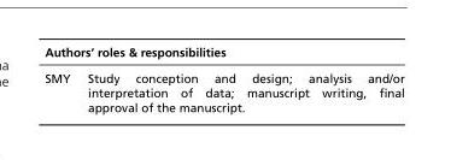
<table><thead><tr><td colspan="2">Authors’ roles &amp; responsibilities</td></tr><tr><td>SMY</td><td>Study conception and design; analysis and/or interpretation of data; manuscript writing, final approval of the manuscript.</td></tr></thead><tbody></tbody></table>